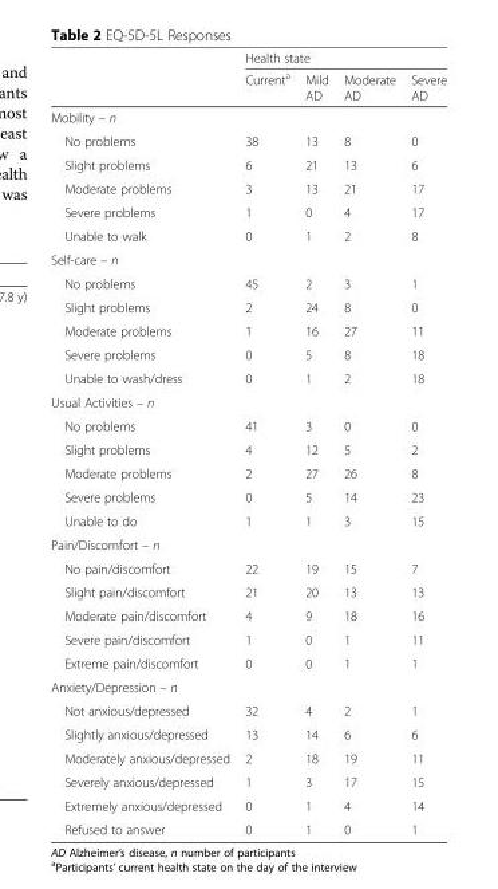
<table><thead><tr><td rowspan="2"></td><td colspan="4">Health state</td></tr><tr><td>Current<sup>a</sup></td><td>Mild AD</td><td>Moderate AD</td><td>Severe AD</td></tr></thead><tbody><tr><td colspan="5">Mobility – n</td></tr><tr><td>No problems</td><td>38</td><td>13</td><td>8</td><td>0</td></tr><tr><td>Slight problems</td><td>6</td><td>21</td><td>13</td><td>6</td></tr><tr><td>Moderate problems</td><td>3</td><td>13</td><td>21</td><td>17</td></tr><tr><td>Severe problems</td><td>1</td><td>0</td><td>4</td><td>17</td></tr><tr><td>Unable to walk</td><td>0</td><td>1</td><td>2</td><td>8</td></tr><tr><td colspan="5">Self-care – n</td></tr><tr><td>No problems</td><td>45</td><td>2</td><td>3</td><td>1</td></tr><tr><td>Slight problems</td><td>2</td><td>24</td><td>8</td><td>0</td></tr><tr><td>Moderate problems</td><td>1</td><td>16</td><td>27</td><td>11</td></tr><tr><td>Severe problems</td><td>0</td><td>5</td><td>8</td><td>18</td></tr><tr><td>Unable to wash/dress</td><td>0</td><td>1</td><td>2</td><td>18</td></tr><tr><td colspan="5">Usual Activities – n</td></tr><tr><td>No problems</td><td>41</td><td>3</td><td>0</td><td>0</td></tr><tr><td>Slight problems</td><td>4</td><td>12</td><td>5</td><td>2</td></tr><tr><td>Moderate problems</td><td>2</td><td>27</td><td>26</td><td>8</td></tr><tr><td>Severe problems</td><td>0</td><td>5</td><td>14</td><td>23</td></tr><tr><td>Unable to do</td><td>1</td><td>1</td><td>3</td><td>15</td></tr><tr><td colspan="5">Pain/Discomfort – n</td></tr><tr><td>No pain/discomfort</td><td>22</td><td>19</td><td>15</td><td>7</td></tr><tr><td>Slight pain/discomfort</td><td>21</td><td>20</td><td>13</td><td>13</td></tr><tr><td>Moderate pain/discomfort</td><td>4</td><td>9</td><td>18</td><td>16</td></tr><tr><td>Severe pain/discomfort</td><td>1</td><td>0</td><td>1</td><td>11</td></tr><tr><td>Extreme pain/discomfort</td><td>0</td><td>0</td><td>1</td><td>1</td></tr><tr><td colspan="5">Anxiety/Depression – n</td></tr><tr><td>Not anxious/depressed</td><td>32</td><td>4</td><td>2</td><td>1</td></tr><tr><td>Slightly anxious/depressed</td><td>13</td><td>14</td><td>6</td><td>6</td></tr><tr><td>Moderately anxious/depressed</td><td>2</td><td>18</td><td>19</td><td>11</td></tr><tr><td>Severely anxious/depressed</td><td>1</td><td>3</td><td>17</td><td>15</td></tr><tr><td>Extremely anxious/depressed</td><td>0</td><td>1</td><td>4</td><td>14</td></tr><tr><td>Refused to answer</td><td>0</td><td>1</td><td>0</td><td>1</td></tr></tbody></table>